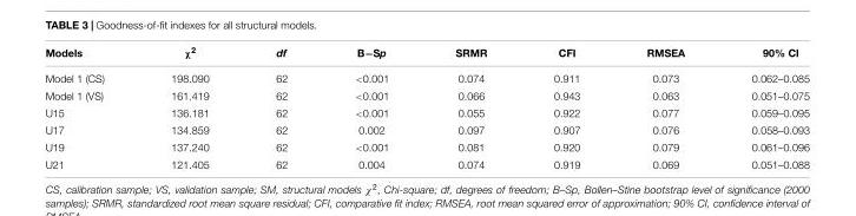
<table><thead><tr><td>Models</td><td>χ<sup>2</sup></td><td>df</td><td>B−Sp</td><td>SRMR</td><td>CFI</td><td>RMSEA</td><td>90% CI</td></tr></thead><tbody><tr><td>Model 1 (CS)</td><td>198.090</td><td>62</td><td>&lt;0.001</td><td>0.074</td><td>0.911</td><td>0.073</td><td>0.062–0.085</td></tr><tr><td>Model 1 (VS)</td><td>161.419</td><td>62</td><td>&lt;0.001</td><td>0.066</td><td>0.943</td><td>0.063</td><td>0.051–0.075</td></tr><tr><td>U15</td><td>136.181</td><td>62</td><td>&lt;0.001</td><td>0.055</td><td>0.922</td><td>0.077</td><td>0.059–0.095</td></tr><tr><td>U17</td><td>134.859</td><td>62</td><td>0.002</td><td>0.097</td><td>0.907</td><td>0.076</td><td>0.058–0.093</td></tr><tr><td>U19</td><td>137.240</td><td>62</td><td>&lt;0.001</td><td>0.081</td><td>0.920</td><td>0.079</td><td>0.061–0.096</td></tr><tr><td>U21</td><td>121.405</td><td>62</td><td>0.004</td><td>0.074</td><td>0.919</td><td>0.069</td><td>0.051–0.088</td></tr></tbody></table>